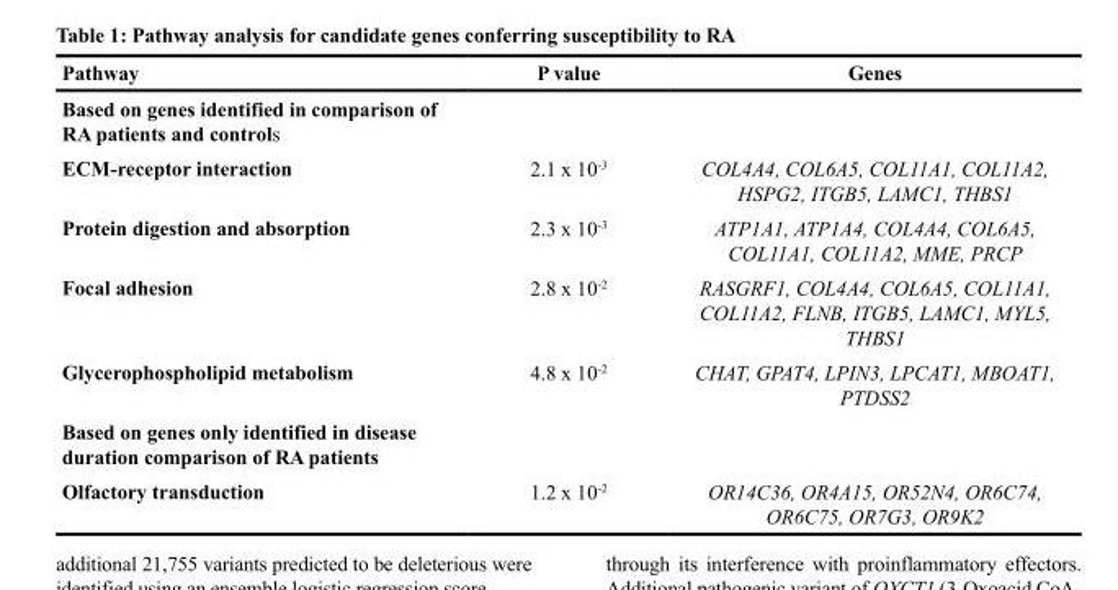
<table><thead><tr><td>Pathway</td><td>P value</td><td>Genes</td></tr></thead><tbody><tr><td colspan="3">Based on genes identified in comparison of RA patients and controls</td></tr><tr><td>ECM-receptor interaction</td><td>2.1 x 10<sup>-3</sup></td><td>COL4A4, COL6A5, COL11A1, COL11A2, HSPG2, ITGB5, LAMC1, THBS1</td></tr><tr><td>Protein digestion and absorption</td><td>2.3 x 10<sup>-3</sup></td><td>ATP1A1, ATP1A4, COL4A4, COL6A5, COL11A1, COL11A2, MME, PRCP</td></tr><tr><td>Focal adhesion</td><td>2.8 x 10<sup>-2</sup></td><td>RASGRF1, COL4A4, COL6A5, COL11A1, COL11A2, FLNB, ITGB5, LAMC1, MYL5, THBS1</td></tr><tr><td>Glycerophospholipid metabolism</td><td>4.8 x 10<sup>-2</sup></td><td>CHAT, GPAT4, LPIN3, LPCAT1, MBOAT1, PTDSS2</td></tr><tr><td colspan="3">Based on genes only identified in disease duration comparison of RA patients</td></tr><tr><td>Olfactory transduction</td><td>1.2 x 10<sup>-2</sup></td><td>OR14C36, OR4A15, OR52N4, OR6C74, OR6C75, OR7G3, OR9K2</td></tr></tbody></table>